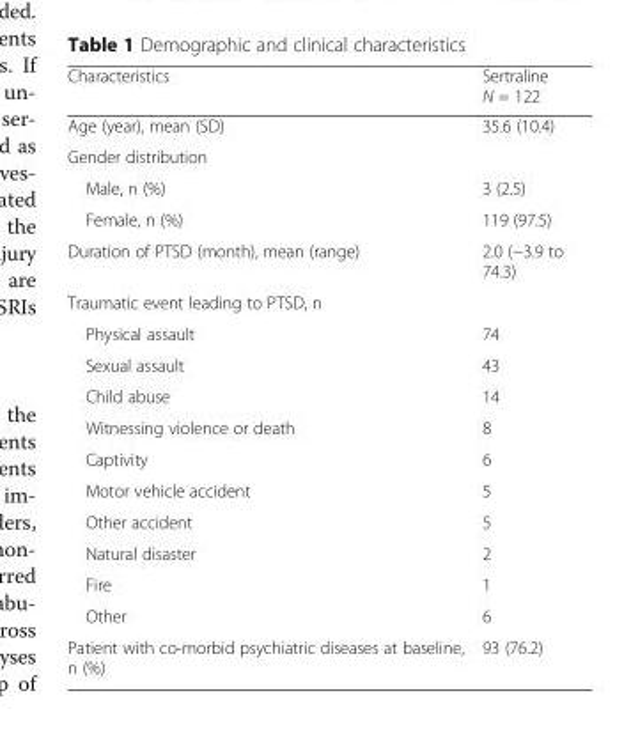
<table><thead><tr><td>Characteristics</td><td>Sertraline N = 122</td></tr></thead><tbody><tr><td>Age (year), mean (SD)</td><td>35.6 (10.4)</td></tr><tr><td colspan="2">Gender distribution</td></tr><tr><td>Male, n (%)</td><td>3 (2.5)</td></tr><tr><td>Female, n (%)</td><td>119 (97.5)</td></tr><tr><td>Duration of PTSD (month), mean (range)</td><td>2.0 (−3.9 to 74.3)</td></tr><tr><td colspan="2">Traumatic event leading to PTSD, n</td></tr><tr><td>Physical assault</td><td>74</td></tr><tr><td>Sexual assault</td><td>43</td></tr><tr><td>Child abuse</td><td>14</td></tr><tr><td>Witnessing violence or death</td><td>8</td></tr><tr><td>Captivity</td><td>6</td></tr><tr><td>Motor vehicle accident</td><td>5</td></tr><tr><td>Other accident</td><td>5</td></tr><tr><td>Natural disaster</td><td>2</td></tr><tr><td>Fire</td><td>1</td></tr><tr><td>Other</td><td>6</td></tr><tr><td>Patient with co-morbid psychiatric diseases at baseline, n (%)</td><td>93 (76.2)</td></tr></tbody></table>